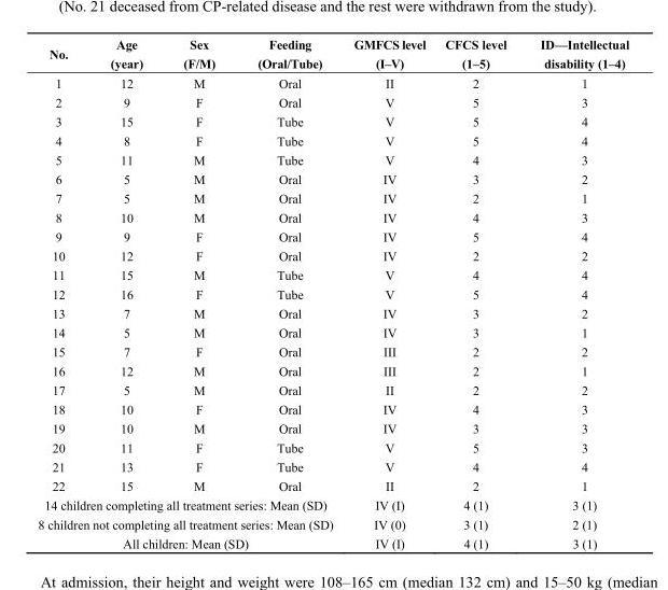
<table><thead><tr><td>No.</td><td>Age (year)</td><td>Sex (F/M)</td><td>Feeding (Oral/Tube)</td><td>GMFCS level (I–V)</td><td>CFCS level (1–5)</td><td>ID—Intellectual disability (1–4)</td></tr></thead><tbody><tr><td>1</td><td>12</td><td>M</td><td>Oral</td><td>II</td><td>2</td><td>1</td></tr><tr><td>2</td><td>9</td><td>F</td><td>Oral</td><td>V</td><td>5</td><td>3</td></tr><tr><td>3</td><td>15</td><td>F</td><td>Tube</td><td>V</td><td>5</td><td>4</td></tr><tr><td>4</td><td>8</td><td>F</td><td>Tube</td><td>V</td><td>5</td><td>4</td></tr><tr><td>5</td><td>11</td><td>M</td><td>Tube</td><td>V</td><td>4</td><td>3</td></tr><tr><td>6</td><td>5</td><td>M</td><td>Oral</td><td>IV</td><td>3</td><td>2</td></tr><tr><td>7</td><td>5</td><td>M</td><td>Oral</td><td>IV</td><td>2</td><td>1</td></tr><tr><td>8</td><td>10</td><td>M</td><td>Oral</td><td>IV</td><td>4</td><td>3</td></tr><tr><td>9</td><td>9</td><td>F</td><td>Oral</td><td>IV</td><td>5</td><td>4</td></tr><tr><td>10</td><td>12</td><td>F</td><td>Oral</td><td>IV</td><td>2</td><td>2</td></tr><tr><td>11</td><td>15</td><td>M</td><td>Tube</td><td>V</td><td>4</td><td>4</td></tr><tr><td>12</td><td>16</td><td>F</td><td>Tube</td><td>V</td><td>5</td><td>4</td></tr><tr><td>13</td><td>7</td><td>M</td><td>Oral</td><td>IV</td><td>3</td><td>2</td></tr><tr><td>14</td><td>5</td><td>M</td><td>Oral</td><td>IV</td><td>3</td><td>1</td></tr><tr><td>15</td><td>7</td><td>F</td><td>Oral</td><td>III</td><td>2</td><td>2</td></tr><tr><td>16</td><td>12</td><td>M</td><td>Oral</td><td>III</td><td>2</td><td>1</td></tr><tr><td>17</td><td>5</td><td>M</td><td>Oral</td><td>II</td><td>2</td><td>2</td></tr><tr><td>18</td><td>10</td><td>F</td><td>Oral</td><td>IV</td><td>4</td><td>3</td></tr><tr><td>19</td><td>10</td><td>M</td><td>Oral</td><td>IV</td><td>3</td><td>3</td></tr><tr><td>20</td><td>11</td><td>F</td><td>Tube</td><td>V</td><td>5</td><td>3</td></tr><tr><td>21</td><td>13</td><td>F</td><td>Tube</td><td>V</td><td>4</td><td>4</td></tr><tr><td>22</td><td>15</td><td>M</td><td>Oral</td><td>II</td><td>2</td><td>1</td></tr><tr><td colspan="4">14 children completing all treatment series: Mean (SD)</td><td>IV (I)</td><td>4 (1)</td><td>3 (1)</td></tr><tr><td colspan="4">8 children not completing all treatment series: Mean (SD)</td><td>IV (0)</td><td>3 (1)</td><td>2 (1)</td></tr><tr><td colspan="4">All children: Mean (SD)</td><td>IV (I)</td><td>4 (1)</td><td>3 (1)</td></tr></tbody></table>